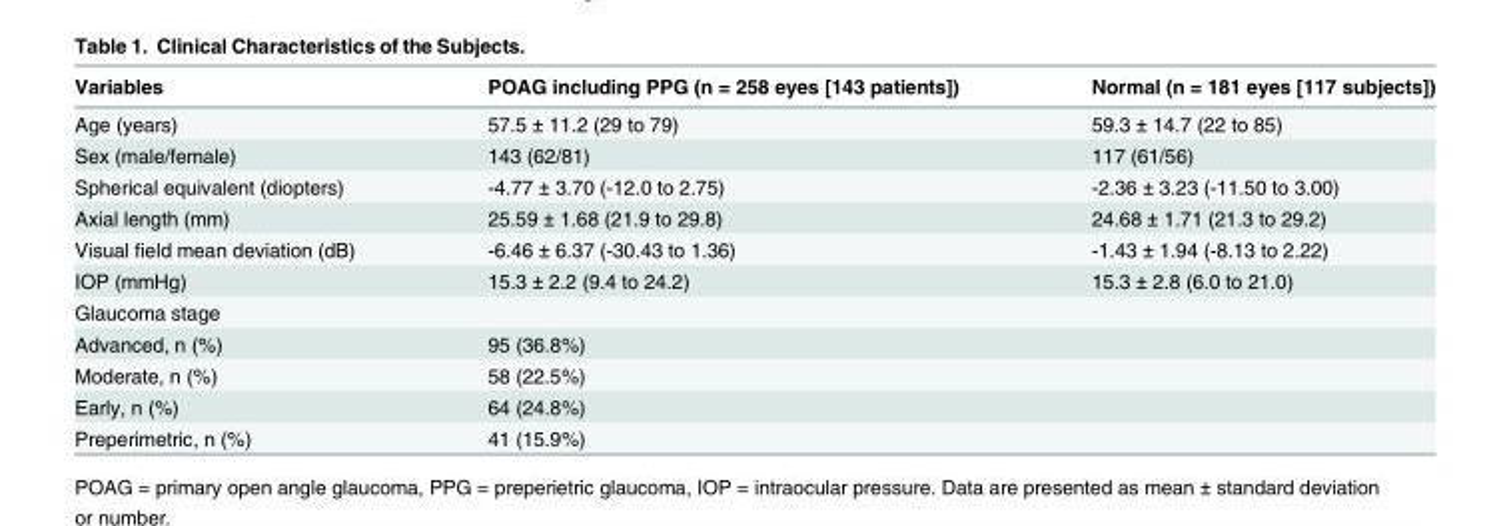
<table><thead><tr><td>Variables</td><td>POAG including PPG (n = 258 eyes [143 patients])</td><td>Normal (n = 181 eyes [117 subjects])</td></tr></thead><tbody><tr><td>Age (years)</td><td>57.5 ± 11.2 (29 to 79)</td><td>59.3 ± 14.7 (22 to 85)</td></tr><tr><td>Sex (male/female)</td><td>143 (62/81)</td><td>117 (61/56)</td></tr><tr><td>Spherical equivalent (diopters)</td><td>-4.77 ± 3.70 (-12.0 to 2.75)</td><td>-2.36 ± 3.23 (-11.50 to 3.00)</td></tr><tr><td>Axial length (mm)</td><td>25.59 ± 1.68 (21.9 to 29.8)</td><td>24.68 ± 1.71 (21.3 to 29.2)</td></tr><tr><td>Visual field mean deviation (dB)</td><td>-6.46 ± 6.37 (-30.43 to 1.36)</td><td>-1.43 ± 1.94 (-8.13 to 2.22)</td></tr><tr><td>IOP (mmHg)</td><td>15.3 ± 2.2 (9.4 to 24.2)</td><td>15.3 ± 2.8 (6.0 to 21.0)</td></tr><tr><td colspan="3">Glaucoma stage</td></tr><tr><td>Advanced, n (%)</td><td>95 (36.8%)</td><td></td></tr><tr><td>Moderate, n (%)</td><td>58 (22.5%)</td><td></td></tr><tr><td>Early, n (%)</td><td>64 (24.8%)</td><td></td></tr><tr><td>Preperimetric, n (%)</td><td>41 (15.9%)</td><td></td></tr></tbody></table>